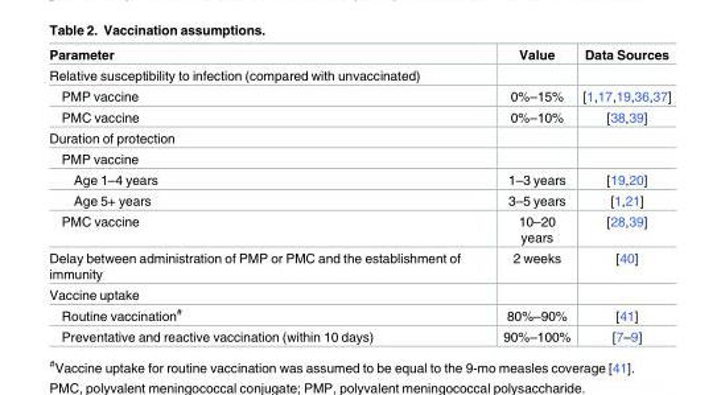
<table><thead><tr><td>Parameter</td><td>Value</td><td>Data Sources</td></tr></thead><tbody><tr><td colspan="3">Relative susceptibility to infection (compared with unvaccinated)</td></tr><tr><td>PMP vaccine</td><td>0%–15%</td><td>[1,17,19,36,37]</td></tr><tr><td>PMC vaccine</td><td>0%–10%</td><td>[38,39]</td></tr><tr><td colspan="3">Duration of protection</td></tr><tr><td colspan="3">PMP vaccine</td></tr><tr><td>Age 1–4 years</td><td>1–3 years</td><td>[19,20]</td></tr><tr><td>Age 5+ years</td><td>3–5 years</td><td>[1,21]</td></tr><tr><td>PMC vaccine</td><td>10–20 years</td><td>[28,39]</td></tr><tr><td>Delay between administration of PMP or PMC and the establishment of immunity</td><td>2 weeks</td><td>[40]</td></tr><tr><td colspan="3">Vaccine uptake</td></tr><tr><td>Routine vaccination<sup>#</sup></td><td>80%–90%</td><td>[41]</td></tr><tr><td>Preventative and reactive vaccination (within 10 days)</td><td>90%–100%</td><td>[7–9]</td></tr></tbody></table>